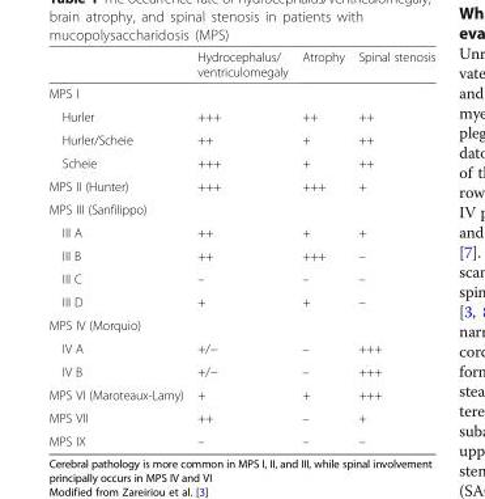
<table><thead><tr><td></td><td>Hydrocephalus/ ventriculomegaly</td><td>Atrophy</td><td>Spinal stenosis</td></tr></thead><tbody><tr><td colspan="4">MPS I</td></tr><tr><td>Hurler</td><td>+++</td><td>++</td><td>++</td></tr><tr><td>Hurler/Scheie</td><td>++</td><td>+</td><td>++</td></tr><tr><td>Scheie</td><td>+++</td><td>+</td><td>++</td></tr><tr><td>MPS II (Hunter)</td><td>+++</td><td>+++</td><td>+</td></tr><tr><td colspan="4">MPS III (Sanfilippo)</td></tr><tr><td>III A</td><td>++</td><td>+</td><td>+</td></tr><tr><td>III B</td><td>++</td><td>+++</td><td>–</td></tr><tr><td>III C</td><td>–</td><td>–</td><td>–</td></tr><tr><td>III D</td><td>+</td><td>+</td><td>–</td></tr><tr><td colspan="4">MPS IV (Morquio)</td></tr><tr><td>IV A</td><td>+/−</td><td>–</td><td>+++</td></tr><tr><td>IV B</td><td>+/−</td><td>–</td><td>+++</td></tr><tr><td>MPS VI (Maroteaux-Lamy)</td><td>+</td><td>+</td><td>+++</td></tr><tr><td>MPS VII</td><td>++</td><td>–</td><td>+</td></tr><tr><td>MPS IX</td><td>–</td><td>–</td><td>–</td></tr></tbody></table>